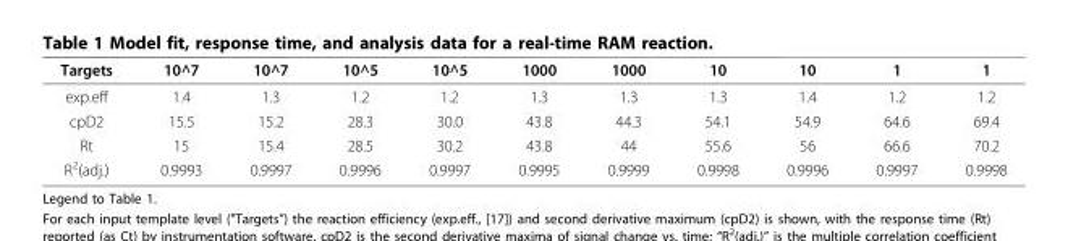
<table><thead><tr><td>Targets</td><td>10^7</td><td>10^7</td><td>10^5</td><td>10^5</td><td>1000</td><td>1000</td><td>10</td><td>10</td><td>1</td><td>1</td></tr></thead><tbody><tr><td>exp.eff</td><td>1.4</td><td>1.3</td><td>1.2</td><td>1.2</td><td>1.3</td><td>1.3</td><td>1.3</td><td>1.4</td><td>1.2</td><td>1.2</td></tr><tr><td>cpD2</td><td>15.5</td><td>15.2</td><td>28.3</td><td>30.0</td><td>43.8</td><td>44.3</td><td>54.1</td><td>54.9</td><td>64.6</td><td>69.4</td></tr><tr><td>Rt</td><td>15</td><td>15.4</td><td>28.5</td><td>30.2</td><td>43.8</td><td>44</td><td>55.6</td><td>56</td><td>66.6</td><td>70.2</td></tr><tr><td>R<sup>2</sup>(adj.)</td><td>0.9993</td><td>0.9997</td><td>0.9996</td><td>0.9997</td><td>0.9995</td><td>0.9999</td><td>0.9998</td><td>0.9996</td><td>0.9997</td><td>0.9998</td></tr></tbody></table>